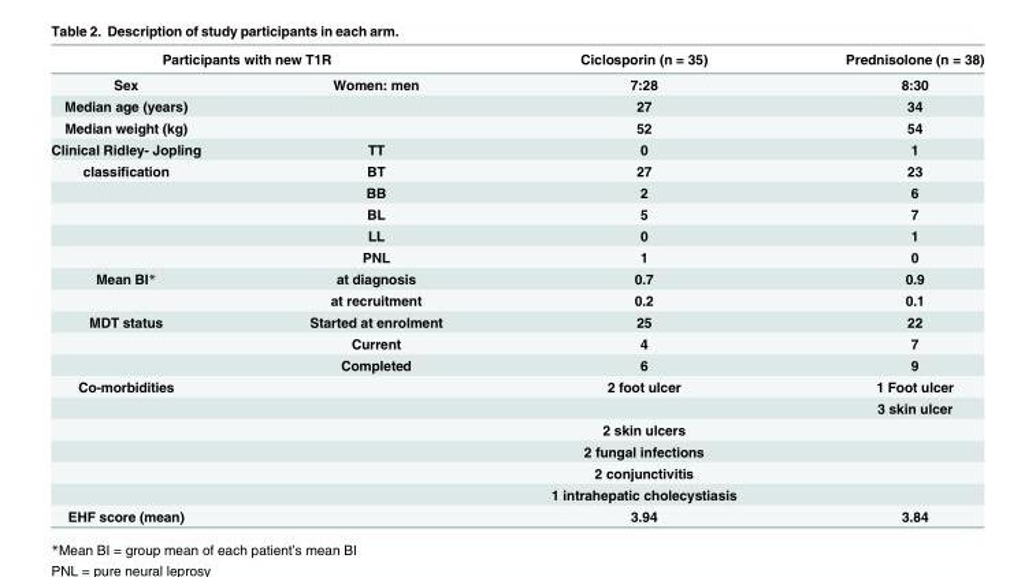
<table><thead><tr><td colspan="2">Participants with new T1R</td><td rowspan="2">Ciclosporin (n = 35) 7:28</td><td rowspan="2">Prednisolone (n = 38) 8:30</td></tr><tr><td>Sex</td><td>Women: men</td></tr></thead><tbody><tr><td>Median age (years)</td><td></td><td>27</td><td>34</td></tr><tr><td>Median weight (kg)</td><td></td><td>52</td><td>54</td></tr><tr><td>Clinical Ridley- Jopling</td><td>TT</td><td>0</td><td>1</td></tr><tr><td rowspan="5">classification</td><td>BT</td><td>27</td><td>23</td></tr><tr><td>BB</td><td>2</td><td>6</td></tr><tr><td>BL</td><td>5</td><td>7</td></tr><tr><td>LL</td><td>0</td><td>1</td></tr><tr><td>PNL</td><td>1</td><td>0</td></tr><tr><td rowspan="2">Mean BI*</td><td>at diagnosis</td><td>0.7</td><td>0.9</td></tr><tr><td>at recruitment</td><td>0.2</td><td>0.1</td></tr><tr><td rowspan="3">MDT status</td><td>Started at enrolment</td><td>25</td><td>22</td></tr><tr><td>Current</td><td>4</td><td>7</td></tr><tr><td>Completed</td><td>6</td><td>9</td></tr><tr><td rowspan="6">Co-morbidities</td><td></td><td>2 foot ulcer</td><td>1 Foot ulcer</td></tr><tr><td></td><td></td><td>3 skin ulcer</td></tr><tr><td></td><td>2 skin ulcers</td><td></td></tr><tr><td></td><td>2 fungal infections</td><td></td></tr><tr><td></td><td>2 conjunctivitis</td><td></td></tr><tr><td></td><td>1 intrahepatic cholecystiasis</td><td></td></tr><tr><td>EHF score (mean)</td><td></td><td>3.94</td><td>3.84</td></tr></tbody></table>